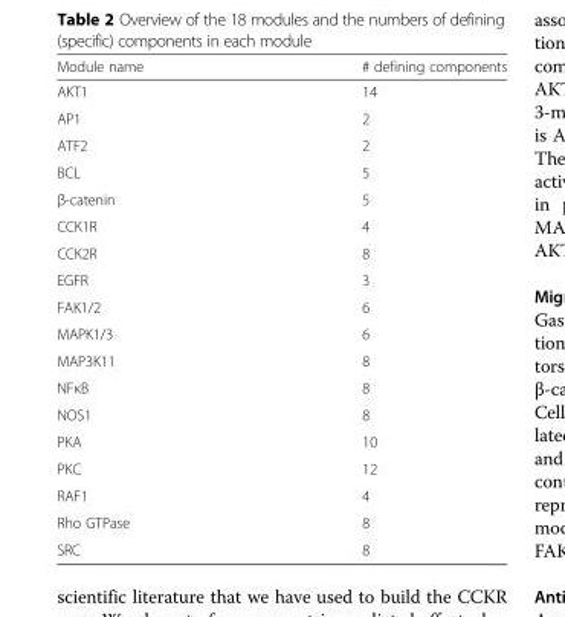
<table><thead><tr><td>Module name</td><td># defining components</td></tr></thead><tbody><tr><td>AKT1</td><td>14</td></tr><tr><td>AP1</td><td>2</td></tr><tr><td>ATF2</td><td>2</td></tr><tr><td>BCL</td><td>5</td></tr><tr><td>β-catenin</td><td>5</td></tr><tr><td>CCK1R</td><td>4</td></tr><tr><td>CCK2R</td><td>8</td></tr><tr><td>EGFR</td><td>3</td></tr><tr><td>FAK1/2</td><td>6</td></tr><tr><td>MAPK1/3</td><td>6</td></tr><tr><td>MAP3K11</td><td>8</td></tr><tr><td>NFκB</td><td>8</td></tr><tr><td>NOS1</td><td>8</td></tr><tr><td>PKA</td><td>10</td></tr><tr><td>PKC</td><td>12</td></tr><tr><td>RAF1</td><td>4</td></tr><tr><td>Rho GTPase</td><td>8</td></tr><tr><td>SRC</td><td>8</td></tr></tbody></table>